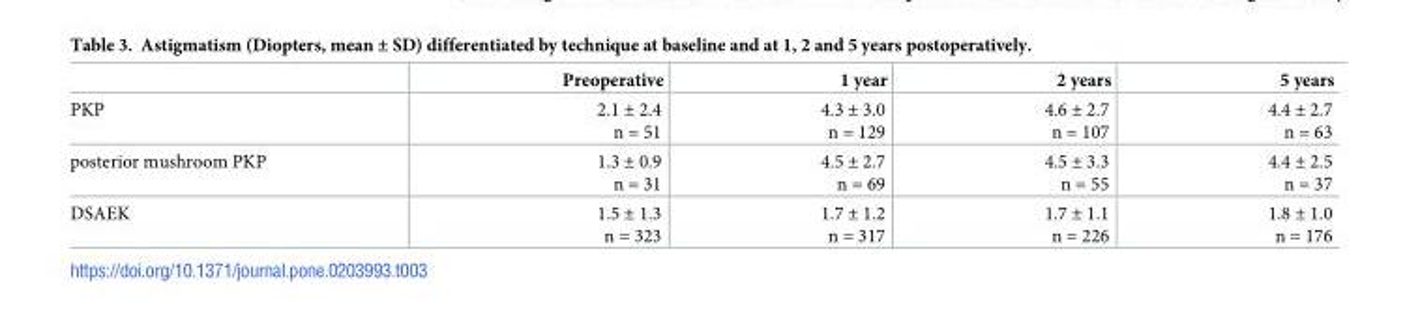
<table><thead><tr><td></td><td>Preoperative</td><td>1 year</td><td>2 years</td><td>5 years</td></tr></thead><tbody><tr><td>PKP</td><td>2.1 ± 2.4 n = 51</td><td>4.3 ± 3.0 n = 129</td><td>4.6 ± 2.7 n = 107</td><td>4.4 ± 2.7 n = 63</td></tr><tr><td>posterior mushroom PKP</td><td>1.3 ± 0.9 n = 31</td><td>4.5 ± 2.7 n = 69</td><td>4.5 ± 3.3 n = 55</td><td>4.4 ± 2.5 n = 37</td></tr><tr><td>DSAEK</td><td>1.5 ± 1.3 n = 323</td><td>1.7 ± 1.2 n = 317</td><td>1.7 ± 1.1 n = 226</td><td>1.8 ± 1.0 n = 176</td></tr></tbody></table>